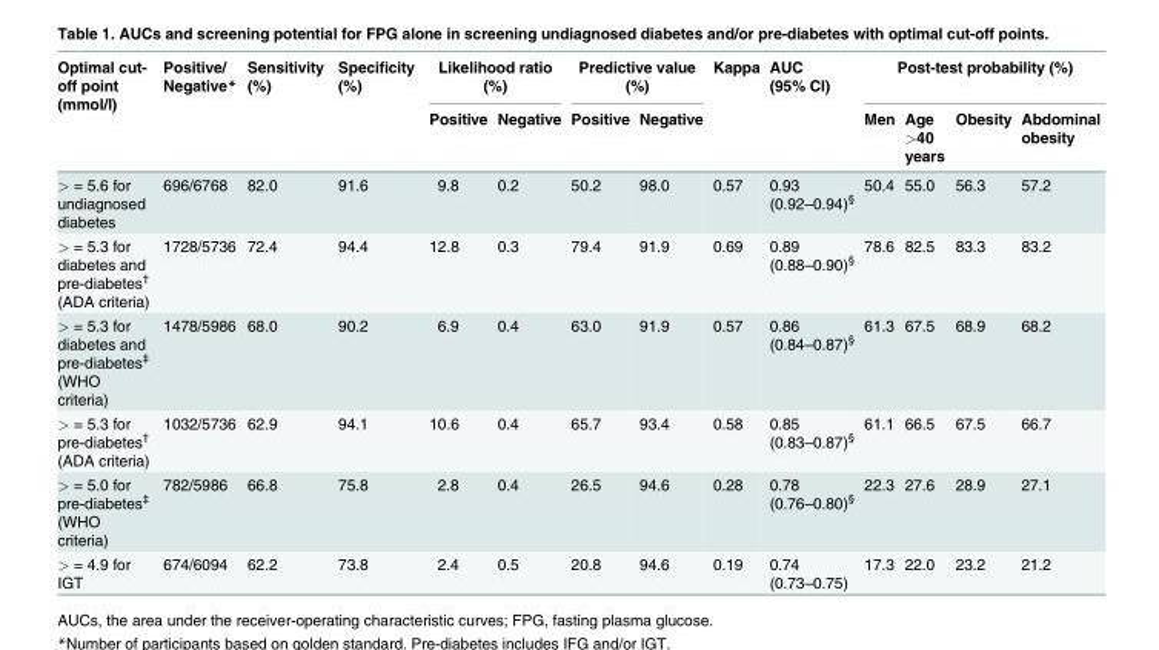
<table><thead><tr><td rowspan="2">Optimal cut- off point (mmol/l)</td><td rowspan="2">Positive/ Negative*</td><td rowspan="2">Sensitivity (%)</td><td rowspan="2">Specificity (%)</td><td colspan="2">Likelihood ratio (%)</td><td colspan="2">Predictive value (%)</td><td rowspan="2">Kappa</td><td rowspan="2">AUC (95% CI)</td><td colspan="4">Post-test probability (%)</td></tr><tr><td>Positive</td><td>Negative</td><td>Positive</td><td>Negative</td><td>Men</td><td>Age &gt;40 years</td><td>Obesity</td><td>Abdominal obesity</td></tr></thead><tbody><tr><td>&gt; = 5.6 for undiagnosed diabetes</td><td>696/6768</td><td>82.0</td><td>91.6</td><td>9.8</td><td>0.2</td><td>50.2</td><td>98.0</td><td>0.57</td><td>0.93 (0.92–0.94)<sup>§</sup></td><td>50.4</td><td>55.0</td><td>56.3</td><td>57.2</td></tr><tr><td>&gt; = 5.3 for diabetes and pre-diabetes<sup>†</sup> (ADA criteria)</td><td>1728/5736</td><td>72.4</td><td>94.4</td><td>12.8</td><td>0.3</td><td>79.4</td><td>91.9</td><td>0.69</td><td>0.89 (0.88–0.90)<sup>§</sup></td><td>78.6</td><td>82.5</td><td>83.3</td><td>83.2</td></tr><tr><td>&gt; = 5.3 for diabetes and pre-diabetes<sup>‡</sup> (WHO criteria)</td><td>1478/5986</td><td>68.0</td><td>90.2</td><td>6.9</td><td>0.4</td><td>63.0</td><td>91.9</td><td>0.57</td><td>0.86 (0.84–0.87)<sup>§</sup></td><td>61.3</td><td>67.5</td><td>68.9</td><td>68.2</td></tr><tr><td>&gt; = 5.3 for pre-diabetes<sup>†</sup> (ADA criteria)</td><td>1032/5736</td><td>62.9</td><td>94.1</td><td>10.6</td><td>0.4</td><td>65.7</td><td>93.4</td><td>0.58</td><td>0.85 (0.83–0.87)<sup>§</sup></td><td>61.1</td><td>66.5</td><td>67.5</td><td>66.7</td></tr><tr><td>&gt; = 5.0 for pre-diabetes<sup>‡</sup> (WHO criteria)</td><td>782/5986</td><td>66.8</td><td>75.8</td><td>2.8</td><td>0.4</td><td>26.5</td><td>94.6</td><td>0.28</td><td>0.78 (0.76–0.80)<sup>§</sup></td><td>22.3</td><td>27.6</td><td>28.9</td><td>27.1</td></tr><tr><td>&gt; = 4.9 for IGT</td><td>674/6094</td><td>62.2</td><td>73.8</td><td>2.4</td><td>0.5</td><td>20.8</td><td>94.6</td><td>0.19</td><td>0.74 (0.73–0.75)</td><td>17.3</td><td>22.0</td><td>23.2</td><td>21.2</td></tr></tbody></table>